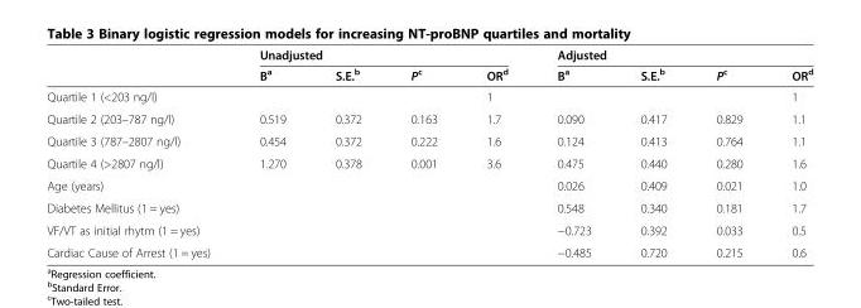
<table><thead><tr><td rowspan="2"></td><td colspan="4">Unadjusted</td><td colspan="4">Adjusted</td></tr><tr><td>B<sup>a</sup></td><td>S.E.<sup>b</sup></td><td>P<sup>c</sup></td><td>OR<sup>d</sup></td><td>B<sup>a</sup></td><td>S.E.<sup>b</sup></td><td>P<sup>c</sup></td><td>OR<sup>d</sup></td></tr></thead><tbody><tr><td>Quartile 1 (&lt;203 ng/l)</td><td></td><td></td><td></td><td>1</td><td></td><td></td><td></td><td>1</td></tr><tr><td>Quartile 2 (203–787 ng/l)</td><td>0.519</td><td>0.372</td><td>0.163</td><td>1.7</td><td>0.090</td><td>0.417</td><td>0.829</td><td>1.1</td></tr><tr><td>Quartile 3 (787–2807 ng/l)</td><td>0.454</td><td>0.372</td><td>0.222</td><td>1.6</td><td>0.124</td><td>0.413</td><td>0.764</td><td>1.1</td></tr><tr><td>Quartile 4 (&gt;2807 ng/l)</td><td>1.270</td><td>0.378</td><td>0.001</td><td>3.6</td><td>0.475</td><td>0.440</td><td>0.280</td><td>1.6</td></tr><tr><td>Age (years)</td><td></td><td></td><td></td><td></td><td>0.026</td><td>0.409</td><td>0.021</td><td>1.0</td></tr><tr><td>Diabetes Mellitus (1 = yes)</td><td></td><td></td><td></td><td></td><td>0.548</td><td>0.340</td><td>0.181</td><td>1.7</td></tr><tr><td>VF/VT as initial rhytm (1 = yes)</td><td></td><td></td><td></td><td></td><td>−0.723</td><td>0.392</td><td>0.033</td><td>0.5</td></tr><tr><td>Cardiac Cause of Arrest (1 = yes)</td><td></td><td></td><td></td><td></td><td>−0.485</td><td>0.720</td><td>0.215</td><td>0.6</td></tr></tbody></table>